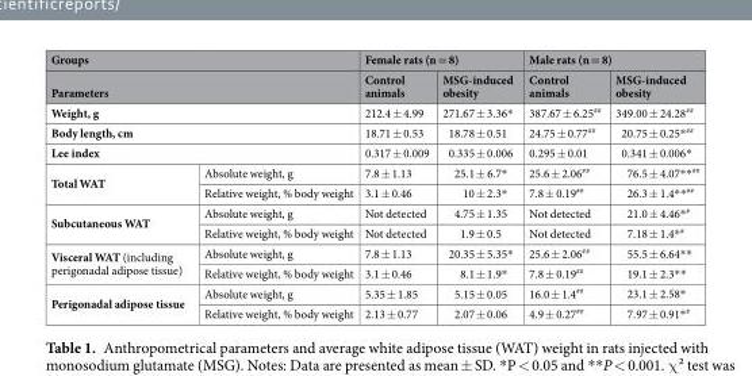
<table><thead><tr><td rowspan="2" colspan="2">Groups Parameters</td><td colspan="2">Female rats (n = 8)</td><td colspan="2">Male rats (n = 8)</td></tr><tr><td>Control animals</td><td>MSG-induced obesity</td><td>Control animals</td><td>MSG-induced obesity</td></tr></thead><tbody><tr><td colspan="2">Weight, g</td><td>212.4 ± 4.99</td><td>271.67 ± 3.36*</td><td>387.67 ± 6.25<sup>##</sup></td><td>349.00 ± 24.28<sup>##</sup></td></tr><tr><td colspan="2">Body length, cm</td><td>18.71 ± 0.53</td><td>18.78 ± 0.51</td><td>24.75 ± 0.77<sup>##</sup></td><td>20.75 ± 0.25*<sup>##</sup></td></tr><tr><td colspan="2">Lee index</td><td>0.317 ± 0.009</td><td>0.335 ± 0.006</td><td>0.295 ± 0.01</td><td>0.341 ± 0.006*</td></tr><tr><td rowspan="2">Total WAT</td><td>Absolute weight, g</td><td>7.8 ± 1.13</td><td>25.1 ± 6.7*</td><td>25.6 ± 2.06<sup>##</sup></td><td>76.5 ± 4.07**<sup>##</sup></td></tr><tr><td>Relative weight, % body weight</td><td>3.1 ± 0.46</td><td>10 ± 2.3*</td><td>7.8 ± 0.19<sup>##</sup></td><td>26.3 ± 1.4**<sup>##</sup></td></tr><tr><td rowspan="2">Subcutaneous WAT</td><td>Absolute weight, g</td><td>Not detected</td><td>4.75 ± 1.35</td><td>Not detected</td><td>21.0 ± 4.46*<sup>#</sup></td></tr><tr><td>Relative weight, % body weight</td><td>Not detected</td><td>1.9 ± 0.5</td><td>Not detected</td><td>7.18 ± 1.4*<sup>#</sup></td></tr><tr><td rowspan="2">Visceral WAT (including perigonadal adipose tissue)</td><td>Absolute weight, g</td><td>7.8 ± 1.13</td><td>20.35 ± 5.35*</td><td>25.6 ± 2.06<sup>##</sup></td><td>55.5 ± 6.64**</td></tr><tr><td>Relative weight, % body weight</td><td>3.1 ± 0.46</td><td>8.1 ± 1.9*</td><td>7.8 ± 0.19<sup>##</sup></td><td>19.1 ± 2.3**</td></tr><tr><td rowspan="2">Perigonadal adipose tissue</td><td>Absolute weight, g</td><td>5.35 ± 1.85</td><td>5.15 ± 0.05</td><td>16.0 ± 1.4<sup>##</sup></td><td>23.1 ± 2.58*</td></tr><tr><td>Relative weight, % body weight</td><td>2.13 ± 0.77</td><td>2.07 ± 0.06</td><td>4.9 ± 0.27<sup>##</sup></td><td>7.97 ± 0.91*<sup>#</sup></td></tr></tbody></table>